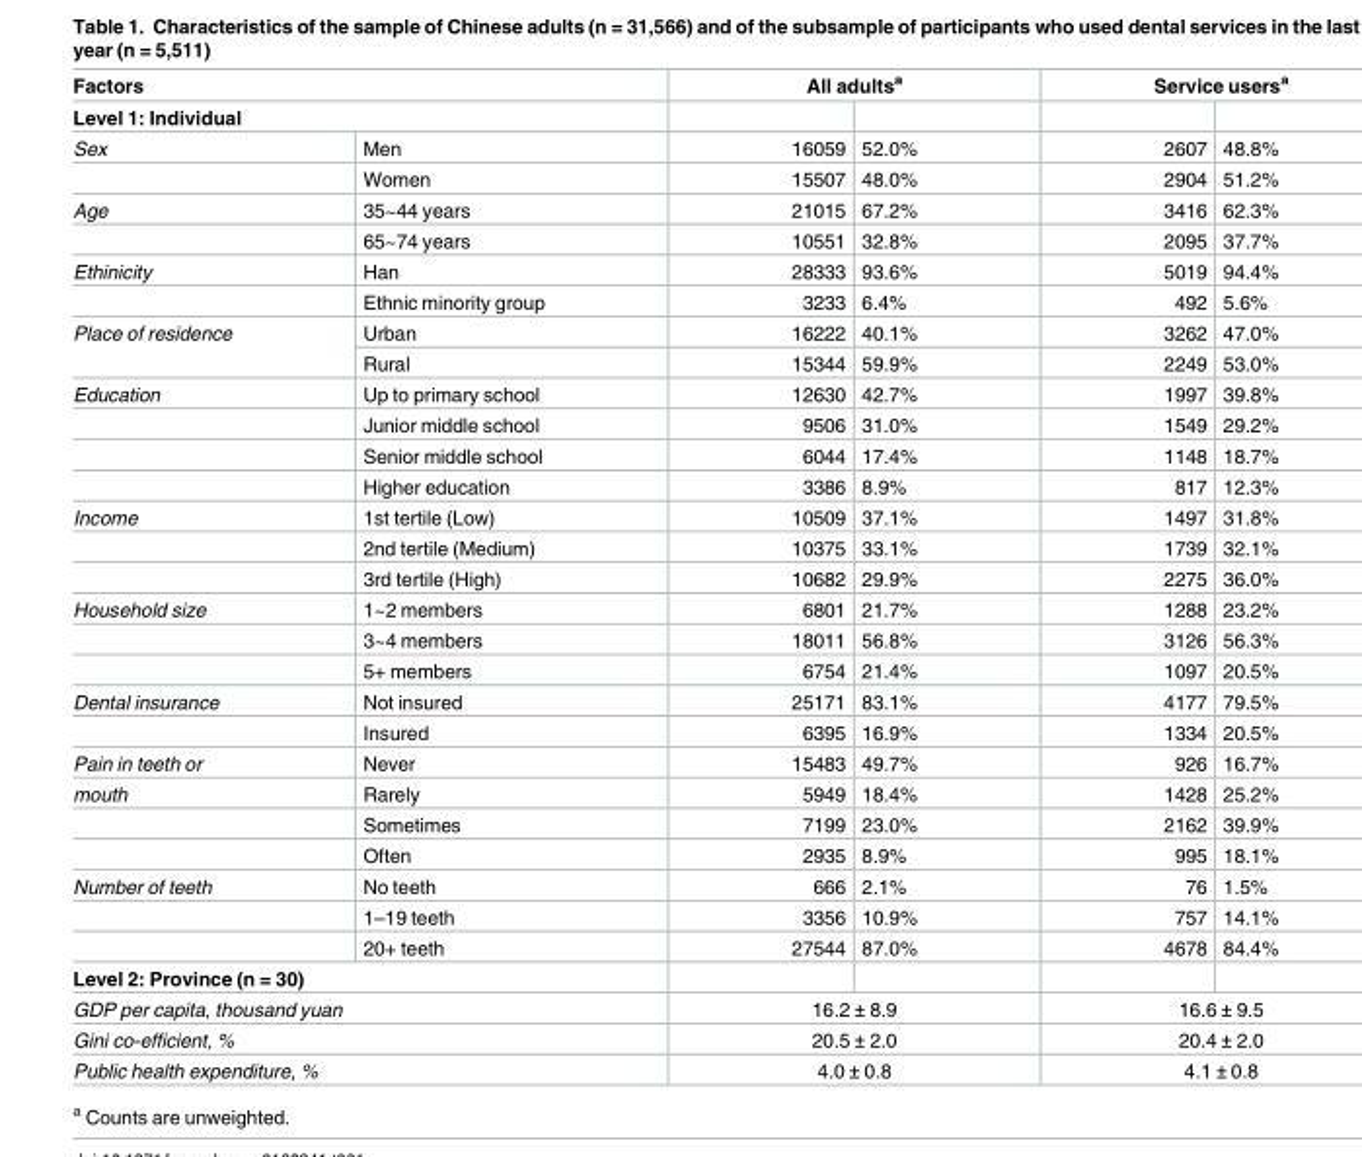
<table><thead><tr><td rowspan="2" colspan="2">Factors Level 1: Individual</td><td colspan="2">All adults<sup>a</sup></td><td colspan="2">Service users<sup>a</sup></td></tr><tr><td rowspan="2">16059</td><td rowspan="2">52.0%</td><td rowspan="2">2607</td><td rowspan="2">48.8%</td></tr><tr><td>Sex</td><td>Men</td></tr></thead><tbody><tr><td></td><td>Women</td><td>15507</td><td>48.0%</td><td>2904</td><td>51.2%</td></tr><tr><td rowspan="2">Age</td><td>35~44 years</td><td>21015</td><td>67.2%</td><td>3416</td><td>62.3%</td></tr><tr><td>65~74 years</td><td>10551</td><td>32.8%</td><td>2095</td><td>37.7%</td></tr><tr><td rowspan="2">Ethinicity</td><td>Han</td><td>28333</td><td>93.6%</td><td>5019</td><td>94.4%</td></tr><tr><td>Ethnic minority group</td><td>3233</td><td>6.4%</td><td>492</td><td>5.6%</td></tr><tr><td rowspan="2">Place of residence</td><td>Urban</td><td>16222</td><td>40.1%</td><td>3262</td><td>47.0%</td></tr><tr><td>Rural</td><td>15344</td><td>59.9%</td><td>2249</td><td>53.0%</td></tr><tr><td rowspan="4">Education</td><td>Up to primary school</td><td>12630</td><td>42.7%</td><td>1997</td><td>39.8%</td></tr><tr><td>Junior middle school</td><td>9506</td><td>31.0%</td><td>1549</td><td>29.2%</td></tr><tr><td>Senior middle school</td><td>6044</td><td>17.4%</td><td>1148</td><td>18.7%</td></tr><tr><td>Higher education</td><td>3386</td><td>8.9%</td><td>817</td><td>12.3%</td></tr><tr><td rowspan="3">Income</td><td>1st tertile (Low)</td><td>10509</td><td>37.1%</td><td>1497</td><td>31.8%</td></tr><tr><td>2nd tertile (Medium)</td><td>10375</td><td>33.1%</td><td>1739</td><td>32.1%</td></tr><tr><td>3rd tertile (High)</td><td>10682</td><td>29.9%</td><td>2275</td><td>36.0%</td></tr><tr><td rowspan="3">Household size</td><td>1~2 members</td><td>6801</td><td>21.7%</td><td>1288</td><td>23.2%</td></tr><tr><td>3~4 members</td><td>18011</td><td>56.8%</td><td>3126</td><td>56.3%</td></tr><tr><td>5+ members</td><td>6754</td><td>21.4%</td><td>1097</td><td>20.5%</td></tr><tr><td rowspan="2">Dental insurance</td><td>Not insured</td><td>25171</td><td>83.1%</td><td>4177</td><td>79.5%</td></tr><tr><td>Insured</td><td>6395</td><td>16.9%</td><td>1334</td><td>20.5%</td></tr><tr><td>Pain in teeth or</td><td>Never</td><td>15483</td><td>49.7%</td><td>926</td><td>16.7%</td></tr><tr><td rowspan="3">mouth</td><td>Rarely</td><td>5949</td><td>18.4%</td><td>1428</td><td>25.2%</td></tr><tr><td>Sometimes</td><td>7199</td><td>23.0%</td><td>2162</td><td>39.9%</td></tr><tr><td>Often</td><td>2935</td><td>8.9%</td><td>995</td><td>18.1%</td></tr><tr><td rowspan="3">Number of teeth</td><td>No teeth</td><td>666</td><td>2.1%</td><td>76</td><td>1.5%</td></tr><tr><td>1–19 teeth</td><td>3356</td><td>10.9%</td><td>757</td><td>14.1%</td></tr><tr><td>20+ teeth</td><td>27544</td><td>87.0%</td><td>4678</td><td>84.4%</td></tr><tr><td colspan="6">Level 2: Province (n = 30)</td></tr><tr><td colspan="2">GDP per capita, thousand yuan</td><td colspan="2">16.2 ± 8.9</td><td colspan="2">16.6 ± 9.5</td></tr><tr><td colspan="2">Gini co-efficient, %</td><td colspan="2">20.5 ± 2.0</td><td colspan="2">20.4 ± 2.0</td></tr><tr><td colspan="2">Public health expenditure, %</td><td colspan="2">4.0 ± 0.8</td><td colspan="2">4.1 ± 0.8</td></tr></tbody></table>